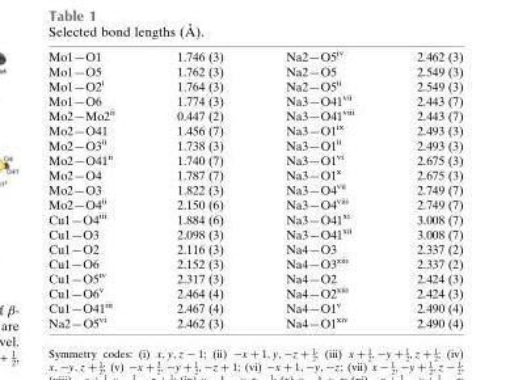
<table><tbody><tr><td>Mo1—O1</td><td>1.746 (3)</td><td>Na2—O5<sup>iv</sup></td><td>2.462 (3)</td></tr><tr><td>Mo1—O5</td><td>1.762 (3)</td><td>Na2—O5</td><td>2.549 (3)</td></tr><tr><td>Mo1—O2<sup>i</sup></td><td>1.764 (3)</td><td>Na2—O5<sup>ii</sup></td><td>2.549 (3)</td></tr><tr><td>Mo1—O6</td><td>1.774 (3)</td><td>Na3—O41<sup>vii</sup></td><td>2.443 (7)</td></tr><tr><td>Mo2—Mo2<sup>ii</sup></td><td>0.447 (2)</td><td>Na3—O41<sup>viii</sup></td><td>2.443 (7)</td></tr><tr><td>Mo2—O41</td><td>1.456 (7)</td><td>Na3—O1<sup>ix</sup></td><td>2.493 (3)</td></tr><tr><td>Mo2—O3<sup>ii</sup></td><td>1.738 (3)</td><td>Na3—O1<sup>ii</sup></td><td>2.493 (3)</td></tr><tr><td>Mo2—O41<sup>ii</sup></td><td>1.740 (7)</td><td>Na3—O1<sup>vi</sup></td><td>2.675 (3)</td></tr><tr><td>Mo2—O4</td><td>1.787 (7)</td><td>Na3—O1<sup>x</sup></td><td>2.675 (3)</td></tr><tr><td>Mo2—O3</td><td>1.822 (3)</td><td>Na3—O4<sup>vii</sup></td><td>2.749 (7)</td></tr><tr><td>Mo2—O4<sup>ii</sup></td><td>2.150 (6)</td><td>Na3—O4<sup>viii</sup></td><td>2.749 (7)</td></tr><tr><td>Cu1—O4<sup>iii</sup></td><td>1.884 (6)</td><td>Na3—O41<sup>xi</sup></td><td>3.008 (7)</td></tr><tr><td>Cu1—O3</td><td>2.098 (3)</td><td>Na3—O41<sup>xii</sup></td><td>3.008 (7)</td></tr><tr><td>Cu1—O2</td><td>2.116 (3)</td><td>Na4—O3</td><td>2.337 (2)</td></tr><tr><td>Cu1—O6</td><td>2.152 (3)</td><td>Na4—O3<sup>xiii</sup></td><td>2.337 (2)</td></tr><tr><td>Cu1—O5<sup>iv</sup></td><td>2.317 (3)</td><td>Na4—O2</td><td>2.424 (3)</td></tr><tr><td>Cu1—O6<sup>v</sup></td><td>2.464 (4)</td><td>Na4—O2<sup>xiii</sup></td><td>2.424 (3)</td></tr><tr><td>Cu1—O41<sup>iii</sup></td><td>2.467 (4)</td><td>Na4—O1<sup>v</sup></td><td>2.490 (4)</td></tr><tr><td>Na2—O5<sup>vi</sup></td><td>2.462 (3)</td><td>Na4—O1<sup>xiv</sup></td><td>2.490 (4)</td></tr></tbody></table>